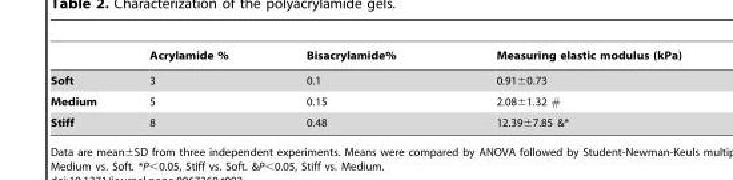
<table><thead><tr><td></td><td>Acrylamide %</td><td>Bisacrylamide%</td><td>Measuring elastic modulus (kPa)</td></tr></thead><tbody><tr><td>Soft</td><td>3</td><td>0.1</td><td>0.91±0.73</td></tr><tr><td>Medium</td><td>5</td><td>0.15</td><td>2.08±1.32 #</td></tr><tr><td>Stiff</td><td>8</td><td>0.48</td><td>12.39±7.85 &amp;*</td></tr></tbody></table>